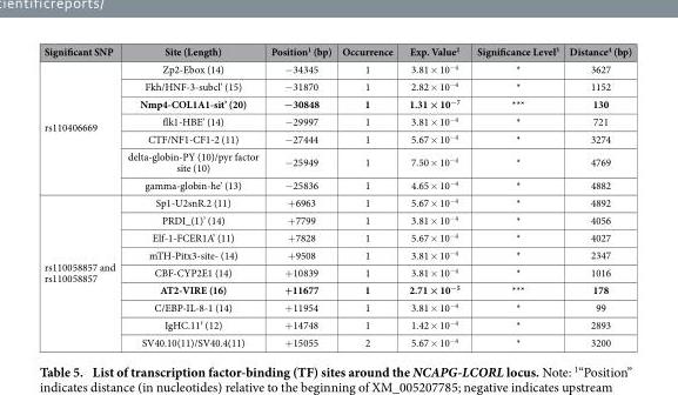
<table><thead><tr><td>Significant SNP</td><td>Site (Length)</td><td>Position<sup>1</sup> (bp)</td><td>Occurrence</td><td>Exp. Value<sup>2</sup></td><td>Significance Level<sup>3</sup></td><td>Distance<sup>4</sup> (bp)</td></tr></thead><tbody><tr><td rowspan="7">rs110406669</td><td>Zp2-Ebox (14)</td><td>− 34345</td><td>1</td><td>3.81 × 10<sup>−4</sup></td><td>*</td><td>3627</td></tr><tr><td>Fkh/HNF-3-subcl’ (15)</td><td>− 31870</td><td>1</td><td>2.82 × 10<sup>−4</sup></td><td>*</td><td>1152</td></tr><tr><td>Nmp4-COL1A1-sit’ (20)</td><td>−30848</td><td>1</td><td>1.31 × 10<sup>−7</sup></td><td>***</td><td>130</td></tr><tr><td>flk1-HBE’ (14)</td><td>− 29997</td><td>1</td><td>3.81 × 10<sup>−4</sup></td><td>*</td><td>721</td></tr><tr><td>CTF/NF1-CF1-2 (11)</td><td>− 27444</td><td>1</td><td>5.67 × 10<sup>−4</sup></td><td>*</td><td>3274</td></tr><tr><td>delta-globin-PY (10)/pyr factor site (10)</td><td>− 25949</td><td>1</td><td>7.50 × 10<sup>−4</sup></td><td>*</td><td>4769</td></tr><tr><td>gamma-globin-he’ (13)</td><td>− 25836</td><td>1</td><td>4.65 × 10<sup>−4</sup></td><td>*</td><td>4882</td></tr><tr><td rowspan="9">rs110058857 and rs110058857</td><td>Sp1-U2snR.2 (11)</td><td>+ 6963</td><td>1</td><td>5.67 × 10<sup>−4</sup></td><td>*</td><td>4892</td></tr><tr><td>PRDI_(1)’ (14)</td><td>+ 7799</td><td>1</td><td>3.81 × 10<sup>−4</sup></td><td>*</td><td>4056</td></tr><tr><td>Elf-1-FCER1A’ (11)</td><td>+ 7828</td><td>1</td><td>5.67 × 10<sup>−4</sup></td><td>*</td><td>4027</td></tr><tr><td>mTH-Pitx3-site- (14)</td><td>+ 9508</td><td>1</td><td>3.81 × 10<sup>−4</sup></td><td>*</td><td>2347</td></tr><tr><td>CBF-CYP2E1 (14)</td><td>+ 10839</td><td>1</td><td>3.81 × 10<sup>−4</sup></td><td>*</td><td>1016</td></tr><tr><td>AT2-VIRE (16)</td><td>+11677</td><td>1</td><td>2.71 × 10<sup>−5</sup></td><td>***</td><td>178</td></tr><tr><td>C/EBP-IL-8-1 (14)</td><td>+ 11954</td><td>1</td><td>3.81 × 10<sup>−4</sup></td><td>*</td><td>99</td></tr><tr><td>IgHC.11′ (12)</td><td>+ 14748</td><td>1</td><td>1.42 × 10<sup>−4</sup></td><td>*</td><td>2893</td></tr><tr><td>SV40.10(11)/SV40.4(11)</td><td>+ 15055</td><td>2</td><td>5.67 × 10<sup>−4</sup></td><td>*</td><td>3200</td></tr></tbody></table>